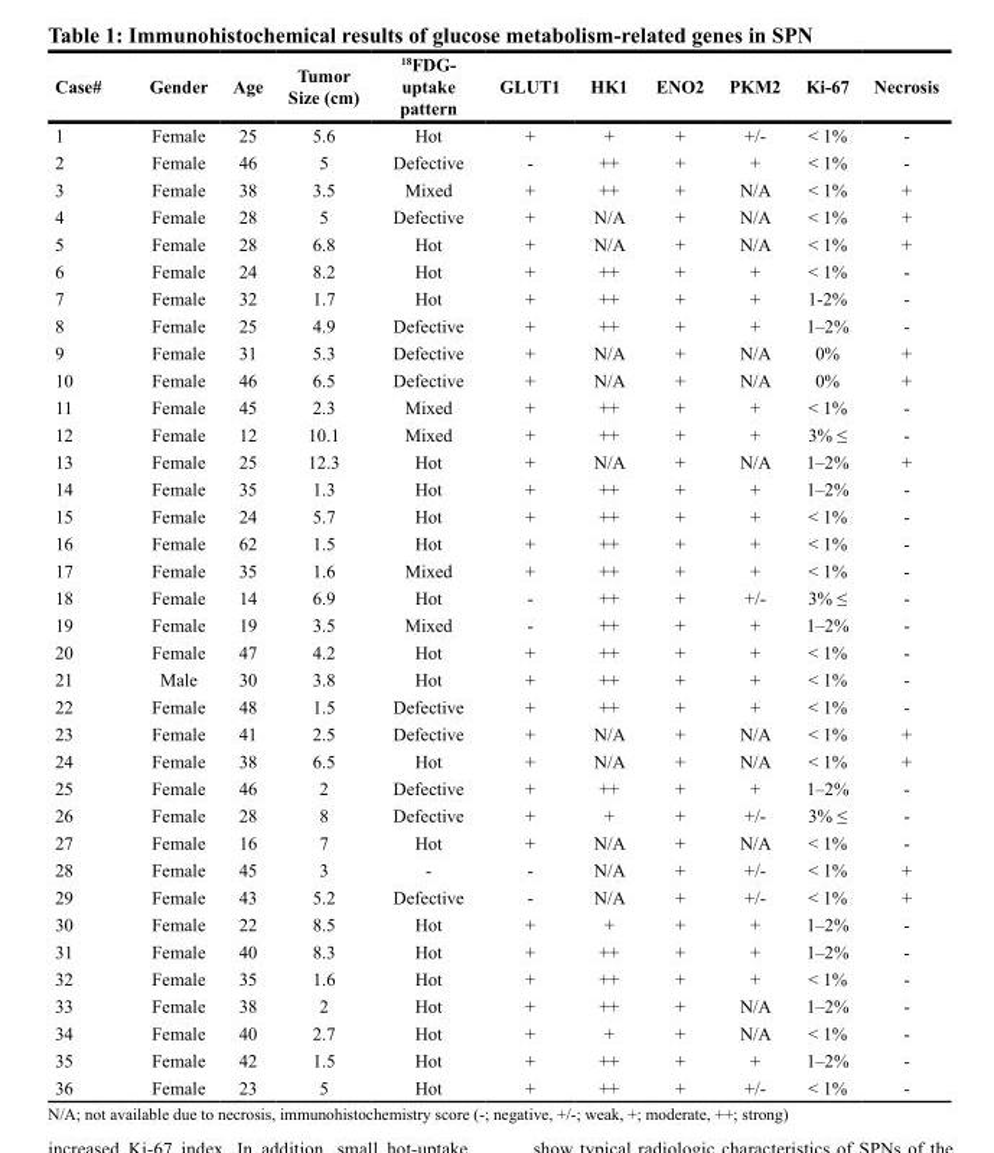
<table><thead><tr><td>Case#</td><td>Gender</td><td>Age</td><td>Tumor Size (cm)</td><td><sup>18</sup>FDG- uptake pattern</td><td>GLUT1</td><td>HK1</td><td>ENO2</td><td>PKM2</td><td>Ki-67</td><td>Necrosis</td></tr></thead><tbody><tr><td>1</td><td>Female</td><td>25</td><td>5.6</td><td>Hot</td><td>+</td><td>+</td><td>+</td><td>+/-</td><td>&lt; 1%</td><td>-</td></tr><tr><td>2</td><td>Female</td><td>46</td><td>5</td><td>Defective</td><td>-</td><td>++</td><td>+</td><td>+</td><td>&lt; 1%</td><td>-</td></tr><tr><td>3</td><td>Female</td><td>38</td><td>3.5</td><td>Mixed</td><td>+</td><td>++</td><td>+</td><td>N/A</td><td>&lt; 1%</td><td>+</td></tr><tr><td>4</td><td>Female</td><td>28</td><td>5</td><td>Defective</td><td>+</td><td>N/A</td><td>+</td><td>N/A</td><td>&lt; 1%</td><td>+</td></tr><tr><td>5</td><td>Female</td><td>28</td><td>6.8</td><td>Hot</td><td>+</td><td>N/A</td><td>+</td><td>N/A</td><td>&lt; 1%</td><td>+</td></tr><tr><td>6</td><td>Female</td><td>24</td><td>8.2</td><td>Hot</td><td>+</td><td>++</td><td>+</td><td>+</td><td>&lt; 1%</td><td>-</td></tr><tr><td>7</td><td>Female</td><td>32</td><td>1.7</td><td>Hot</td><td>+</td><td>++</td><td>+</td><td>+</td><td>1-2%</td><td>-</td></tr><tr><td>8</td><td>Female</td><td>25</td><td>4.9</td><td>Defective</td><td>+</td><td>++</td><td>+</td><td>+</td><td>1–2%</td><td>-</td></tr><tr><td>9</td><td>Female</td><td>31</td><td>5.3</td><td>Defective</td><td>+</td><td>N/A</td><td>+</td><td>N/A</td><td>0%</td><td>+</td></tr><tr><td>10</td><td>Female</td><td>46</td><td>6.5</td><td>Defective</td><td>+</td><td>N/A</td><td>+</td><td>N/A</td><td>0%</td><td>+</td></tr><tr><td>11</td><td>Female</td><td>45</td><td>2.3</td><td>Mixed</td><td>+</td><td>++</td><td>+</td><td>+</td><td>&lt; 1%</td><td>-</td></tr><tr><td>12</td><td>Female</td><td>12</td><td>10.1</td><td>Mixed</td><td>+</td><td>++</td><td>+</td><td>+</td><td>3% ≤</td><td>-</td></tr><tr><td>13</td><td>Female</td><td>25</td><td>12.3</td><td>Hot</td><td>+</td><td>N/A</td><td>+</td><td>N/A</td><td>1–2%</td><td>+</td></tr><tr><td>14</td><td>Female</td><td>35</td><td>1.3</td><td>Hot</td><td>+</td><td>++</td><td>+</td><td>+</td><td>1–2%</td><td>-</td></tr><tr><td>15</td><td>Female</td><td>24</td><td>5.7</td><td>Hot</td><td>+</td><td>++</td><td>+</td><td>+</td><td>&lt; 1%</td><td>-</td></tr><tr><td>16</td><td>Female</td><td>62</td><td>1.5</td><td>Hot</td><td>+</td><td>++</td><td>+</td><td>+</td><td>&lt; 1%</td><td>-</td></tr><tr><td>17</td><td>Female</td><td>35</td><td>1.6</td><td>Mixed</td><td>+</td><td>++</td><td>+</td><td>+</td><td>&lt; 1%</td><td>-</td></tr><tr><td>18</td><td>Female</td><td>14</td><td>6.9</td><td>Hot</td><td>-</td><td>++</td><td>+</td><td>+/-</td><td>3% ≤</td><td>-</td></tr><tr><td>19</td><td>Female</td><td>19</td><td>3.5</td><td>Mixed</td><td>-</td><td>++</td><td>+</td><td>+</td><td>1–2%</td><td>-</td></tr><tr><td>20</td><td>Female</td><td>47</td><td>4.2</td><td>Hot</td><td>+</td><td>++</td><td>+</td><td>+</td><td>&lt; 1%</td><td>-</td></tr><tr><td>21</td><td>Male</td><td>30</td><td>3.8</td><td>Hot</td><td>+</td><td>++</td><td>+</td><td>+</td><td>&lt; 1%</td><td>-</td></tr><tr><td>22</td><td>Female</td><td>48</td><td>1.5</td><td>Defective</td><td>+</td><td>++</td><td>+</td><td>+</td><td>&lt; 1%</td><td>-</td></tr><tr><td>23</td><td>Female</td><td>41</td><td>2.5</td><td>Defective</td><td>+</td><td>N/A</td><td>+</td><td>N/A</td><td>&lt; 1%</td><td>+</td></tr><tr><td>24</td><td>Female</td><td>38</td><td>6.5</td><td>Hot</td><td>+</td><td>N/A</td><td>+</td><td>N/A</td><td>&lt; 1%</td><td>+</td></tr><tr><td>25</td><td>Female</td><td>46</td><td>2</td><td>Defective</td><td>+</td><td>++</td><td>+</td><td>+</td><td>1–2%</td><td>-</td></tr><tr><td>26</td><td>Female</td><td>28</td><td>8</td><td>Defective</td><td>+</td><td>+</td><td>+</td><td>+/-</td><td>3% ≤</td><td>-</td></tr><tr><td>27</td><td>Female</td><td>16</td><td>7</td><td>Hot</td><td>+</td><td>N/A</td><td>+</td><td>N/A</td><td>&lt; 1%</td><td>-</td></tr><tr><td>28</td><td>Female</td><td>45</td><td>3</td><td>-</td><td>-</td><td>N/A</td><td>+</td><td>+/-</td><td>&lt; 1%</td><td>+</td></tr><tr><td>29</td><td>Female</td><td>43</td><td>5.2</td><td>Defective</td><td>-</td><td>N/A</td><td>+</td><td>+/-</td><td>&lt; 1%</td><td>+</td></tr><tr><td>30</td><td>Female</td><td>22</td><td>8.5</td><td>Hot</td><td>+</td><td>+</td><td>+</td><td>+</td><td>1–2%</td><td>-</td></tr><tr><td>31</td><td>Female</td><td>40</td><td>8.3</td><td>Hot</td><td>+</td><td>++</td><td>+</td><td>+</td><td>1–2%</td><td>-</td></tr><tr><td>32</td><td>Female</td><td>35</td><td>1.6</td><td>Hot</td><td>+</td><td>++</td><td>+</td><td>+</td><td>&lt; 1%</td><td>-</td></tr><tr><td>33</td><td>Female</td><td>38</td><td>2</td><td>Hot</td><td>+</td><td>++</td><td>+</td><td>N/A</td><td>1–2%</td><td>-</td></tr><tr><td>34</td><td>Female</td><td>40</td><td>2.7</td><td>Hot</td><td>+</td><td>+</td><td>+</td><td>N/A</td><td>&lt; 1%</td><td>-</td></tr><tr><td>35</td><td>Female</td><td>42</td><td>1.5</td><td>Hot</td><td>+</td><td>++</td><td>+</td><td>+</td><td>1–2%</td><td>-</td></tr><tr><td>36</td><td>Female</td><td>23</td><td>5</td><td>Hot</td><td>+</td><td>++</td><td>+</td><td>+/-</td><td>&lt; 1%</td><td>-</td></tr></tbody></table>